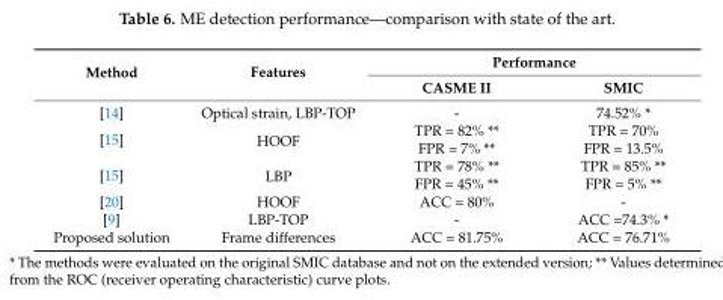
<table><thead><tr><td rowspan="2">Method</td><td rowspan="2">Features</td><td colspan="2">Performance</td></tr><tr><td>CASME II</td><td>SMIC</td></tr></thead><tbody><tr><td>[14]</td><td>Optical strain, LBP-TOP</td><td>-</td><td>74.52% *</td></tr><tr><td rowspan="2">[15]</td><td rowspan="2">HOOF</td><td>TPR = 82% **</td><td>TPR = 70%</td></tr><tr><td>FPR = 7% **</td><td>FPR = 13.5%</td></tr><tr><td rowspan="2">[15]</td><td rowspan="2">LBP</td><td>TPR = 78% **</td><td>TPR = 85% **</td></tr><tr><td>FPR = 45% **</td><td>FPR = 5% **</td></tr><tr><td>[20]</td><td>HOOF</td><td>ACC = 80%</td><td>-</td></tr><tr><td>[9]</td><td>LBP-TOP</td><td>-</td><td>ACC =74.3% *</td></tr><tr><td>Proposed solution</td><td>Frame differences</td><td>ACC = 81.75%</td><td>ACC = 76.71%</td></tr></tbody></table>